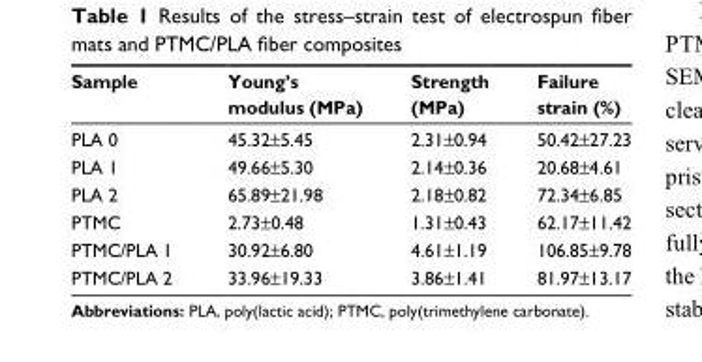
<table><thead><tr><td>Sample</td><td>Young’s modulus (MPa)</td><td>Strength (MPa)</td><td>Failure strain (%)</td></tr></thead><tbody><tr><td>Pla 0</td><td>45.32±5.45</td><td>2.31±0.94</td><td>50.42±27.23</td></tr><tr><td>Pla 1</td><td>49.66±5.30</td><td>2.14±0.36</td><td>20.68±4.61</td></tr><tr><td>Pla 2</td><td>65.89±21.98</td><td>2.18±0.82</td><td>72.34±6.85</td></tr><tr><td>PTMc</td><td>2.73±0.48</td><td>1.31±0.43</td><td>62.17±11.42</td></tr><tr><td>PTMc/Pla 1</td><td>30.92±6.80</td><td>4.61±1.19</td><td>106.85±9.78</td></tr><tr><td>PTMc/Pla 2</td><td>33.96±19.33</td><td>3.86±1.41</td><td>81.97±13.17</td></tr></tbody></table>